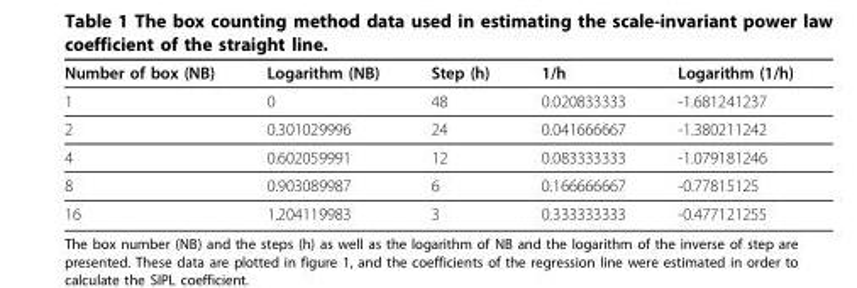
<table><thead><tr><td>Number of box (NB)</td><td>Logarithm (NB)</td><td>Step (h)</td><td>1/h</td><td>Logarithm (1/h)</td></tr></thead><tbody><tr><td>1</td><td>0</td><td>48</td><td>0.020833333</td><td>-1.681241237</td></tr><tr><td>2</td><td>0.301029996</td><td>24</td><td>0.041666667</td><td>-1.380211242</td></tr><tr><td>4</td><td>0.602059991</td><td>12</td><td>0.083333333</td><td>-1.079181246</td></tr><tr><td>8</td><td>0.903089987</td><td>6</td><td>0.166666667</td><td>-0.77815125</td></tr><tr><td>16</td><td>1.204119983</td><td>3</td><td>0.333333333</td><td>-0.477121255</td></tr></tbody></table>